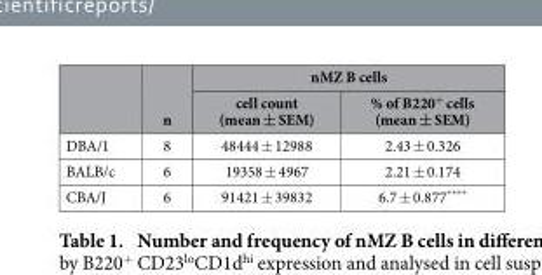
<table><thead><tr><td rowspan="2"></td><td rowspan="2">n</td><td colspan="2">nMZ B cells</td></tr><tr><td>cell count (mean ± SEM)</td><td>% of B220<sup>+</sup> cells (mean ± SEM)</td></tr></thead><tbody><tr><td>DBA/1</td><td>8</td><td>48444 ± 12988</td><td>2.43 ± 0.326</td></tr><tr><td>BALB/c</td><td>6</td><td>19358 ± 4967</td><td>2.21 ± 0.174</td></tr><tr><td>CBA/J</td><td>6</td><td>91421 ± 39832</td><td>6.7 ± 0.877****</td></tr></tbody></table>